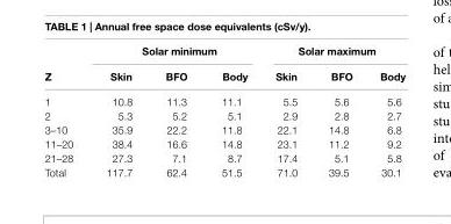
<table><thead><tr><td rowspan="2">Z</td><td colspan="3">solar minimum</td><td colspan="3">solar maximum</td></tr><tr><td>skin</td><td>BFO</td><td>Body</td><td>skin</td><td>BFO</td><td>Body</td></tr></thead><tbody><tr><td>1</td><td>10.8</td><td>11.3</td><td>11.1</td><td>5.5</td><td>5.6</td><td>5.6</td></tr><tr><td>2</td><td>5.3</td><td>5.2</td><td>5.1</td><td>2.9</td><td>2.8</td><td>2.7</td></tr><tr><td>3–10</td><td>35.9</td><td>22.2</td><td>11.8</td><td>22.1</td><td>14.8</td><td>6.8</td></tr><tr><td>11–20</td><td>38.4</td><td>16.6</td><td>14.8</td><td>23.1</td><td>11.2</td><td>9.2</td></tr><tr><td>21–28</td><td>27.3</td><td>7.1</td><td>8.7</td><td>17.4</td><td>5.1</td><td>5.8</td></tr><tr><td>Total</td><td>117.7</td><td>62.4</td><td>51.5</td><td>71.0</td><td>39.5</td><td>30.1</td></tr></tbody></table>